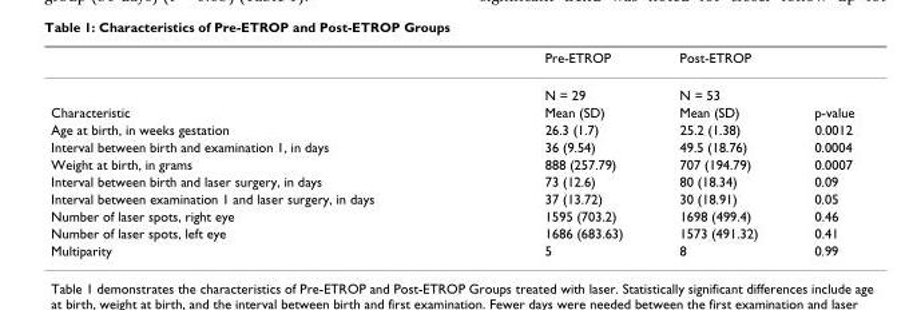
<table><thead><tr><td></td><td>Pre-ETROP</td><td>Post-ETROP</td><td></td></tr></thead><tbody><tr><td></td><td>N = 29</td><td>N = 53</td><td></td></tr><tr><td>Characteristic</td><td>Mean (SD)</td><td>Mean (SD)</td><td>p-value</td></tr><tr><td>Age at birth, in weeks gestation</td><td>26.3 (1.7)</td><td>25.2 (1.38)</td><td>0.0012</td></tr><tr><td>Interval between birth and examination 1, in days</td><td>36 (9.54)</td><td>49.5 (18.76)</td><td>0.0004</td></tr><tr><td>Weight at birth, in grams</td><td>888 (257.79)</td><td>707 (194.79)</td><td>0.0007</td></tr><tr><td>Interval between birth and laser surgery, in days</td><td>73 (12.6)</td><td>80 (18.34)</td><td>0.09</td></tr><tr><td>Interval between examination 1 and laser surgery, in days</td><td>37 (13.72)</td><td>30 (18.91)</td><td>0.05</td></tr><tr><td>Number of laser spots, right eye</td><td>1595 (703.2)</td><td>1698 (499.4)</td><td>0.46</td></tr><tr><td>Number of laser spots, left eye</td><td>1686 (683.63)</td><td>1573 (491.32)</td><td>0.41</td></tr><tr><td>Multiparity</td><td>5</td><td>8</td><td>0.99</td></tr></tbody></table>